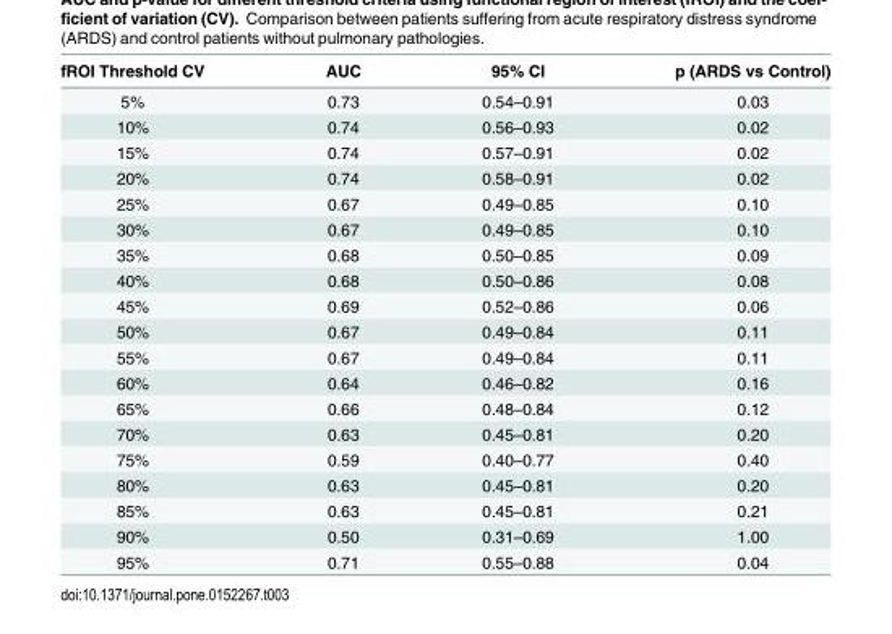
<table><thead><tr><td>fROI Threshold CV</td><td>AUC</td><td>95% CI</td><td>p (ARDS vs Control)</td></tr></thead><tbody><tr><td>5%</td><td>0.73</td><td>0.54–0.91</td><td>0.03</td></tr><tr><td>10%</td><td>0.74</td><td>0.56–0.93</td><td>0.02</td></tr><tr><td>15%</td><td>0.74</td><td>0.57–0.91</td><td>0.02</td></tr><tr><td>20%</td><td>0.74</td><td>0.58–0.91</td><td>0.02</td></tr><tr><td>25%</td><td>0.67</td><td>0.49–0.85</td><td>0.10</td></tr><tr><td>30%</td><td>0.67</td><td>0.49–0.85</td><td>0.10</td></tr><tr><td>35%</td><td>0.68</td><td>0.50–0.85</td><td>0.09</td></tr><tr><td>40%</td><td>0.68</td><td>0.50–0.86</td><td>0.08</td></tr><tr><td>45%</td><td>0.69</td><td>0.52–0.86</td><td>0.06</td></tr><tr><td>50%</td><td>0.67</td><td>0.49–0.84</td><td>0.11</td></tr><tr><td>55%</td><td>0.67</td><td>0.49–0.84</td><td>0.11</td></tr><tr><td>60%</td><td>0.64</td><td>0.46–0.82</td><td>0.16</td></tr><tr><td>65%</td><td>0.66</td><td>0.48–0.84</td><td>0.12</td></tr><tr><td>70%</td><td>0.63</td><td>0.45–0.81</td><td>0.20</td></tr><tr><td>75%</td><td>0.59</td><td>0.40–0.77</td><td>0.40</td></tr><tr><td>80%</td><td>0.63</td><td>0.45–0.81</td><td>0.20</td></tr><tr><td>85%</td><td>0.63</td><td>0.45–0.81</td><td>0.21</td></tr><tr><td>90%</td><td>0.50</td><td>0.31–0.69</td><td>1.00</td></tr><tr><td>95%</td><td>0.71</td><td>0.55–0.88</td><td>0.04</td></tr></tbody></table>